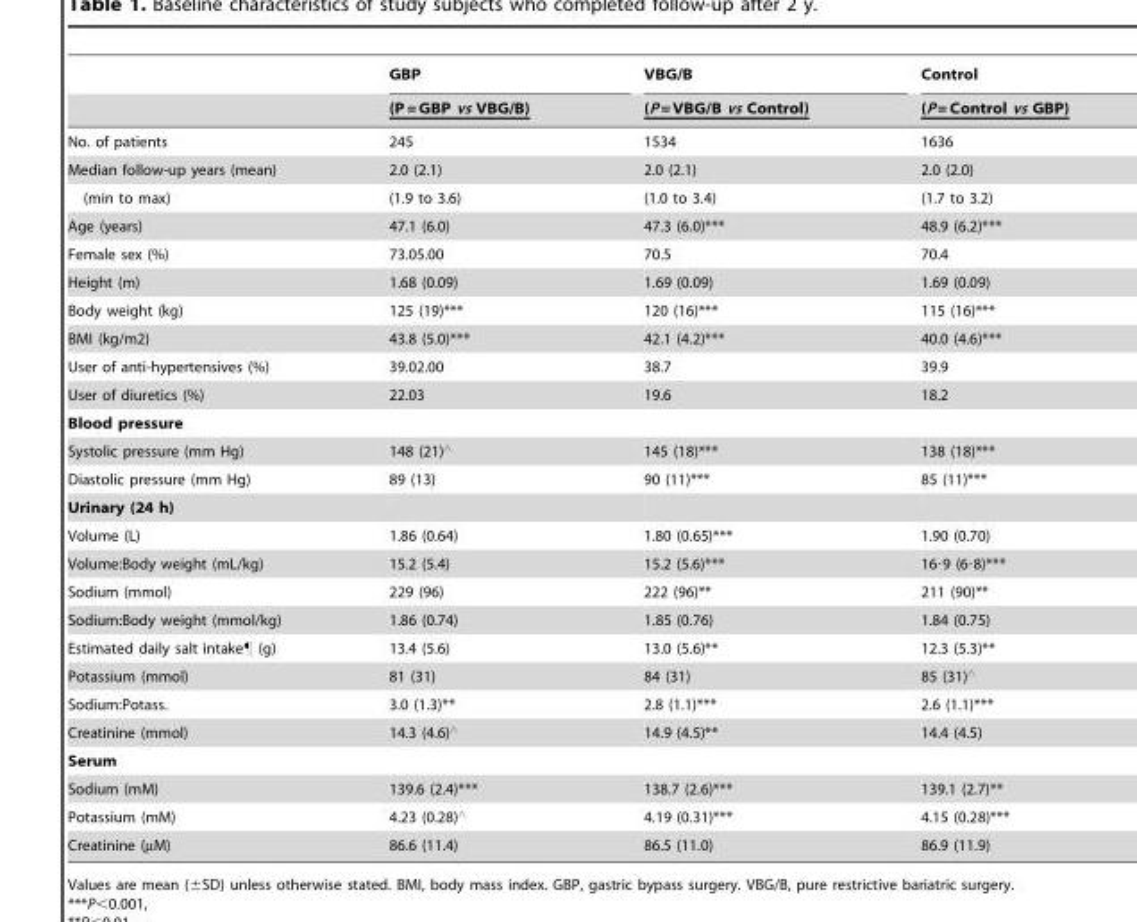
<table><thead><tr><td rowspan="2"></td><td rowspan="2">GBP (P = GBP vs VBG/B)</td><td rowspan="2">VBG/B (P = VBG/B vs Control)</td><td rowspan="2">Control (P = Control vs GBP)</td></tr><tr></tr></thead><tbody><tr><td>No. of patients</td><td>245</td><td>1534</td><td>1636</td></tr><tr><td>Median follow-up years (mean)</td><td>2.0 (2.1)</td><td>2.0 (2.1)</td><td>2.0 (2.0)</td></tr><tr><td>(min to max)</td><td>(1.9 to 3.6)</td><td>(1.0 to 3.4)</td><td>(1.7 to 3.2)</td></tr><tr><td>Age (years)</td><td>47.1 (6.0)</td><td>47.3 (6.0)***</td><td>48.9 (6.2)***</td></tr><tr><td>Female sex (%)</td><td>73.05.00</td><td>70.5</td><td>70.4</td></tr><tr><td>Height (m)</td><td>1.68 (0.09)</td><td>1.69 (0.09)</td><td>1.69 (0.09)</td></tr><tr><td>Body weight (kg)</td><td>125 (19)***</td><td>120 (16)***</td><td>115 (16)***</td></tr><tr><td>BMI (kg/m2)</td><td>43.8 (5.0)***</td><td>42.1 (4.2)***</td><td>40.0 (4.6)***</td></tr><tr><td>User of anti-hypertensives (%)</td><td>39.02.00</td><td>38.7</td><td>39.9</td></tr><tr><td>User of diuretics (%)</td><td>22.03</td><td>19.6</td><td>18.2</td></tr><tr><td colspan="4">Blood pressure</td></tr><tr><td>Systolic pressure (mm Hg)</td><td>148 (21)‘</td><td>145 (18)***</td><td>138 (18)***</td></tr><tr><td>Diastolic pressure (mm Hg)</td><td>89 (13)</td><td>90 (11)***</td><td>85 (11)***</td></tr><tr><td colspan="4">Urinary (24 h)</td></tr><tr><td>Volume (L)</td><td>1.86 (0.64)</td><td>1.80 (0.65)***</td><td>1.90 (0.70)</td></tr><tr><td>Volume:Body weight (mL/kg)</td><td>15.2 (5.4)</td><td>15.2 (5.6)***</td><td>16·9 (6·8)***</td></tr><tr><td>Sodium (mmol)</td><td>229 (96)</td><td>222 (96)**</td><td>211 (90)**</td></tr><tr><td>Sodium:Body weight (mmol/kg)</td><td>1.86 (0.74)</td><td>1.85 (0.76)</td><td>1.84 (0.75)</td></tr><tr><td>Estimated daily salt intake¶ (g)</td><td>13.4 (5.6)</td><td>13.0 (5.6)**</td><td>12.3 (5.3)**</td></tr><tr><td>Potassium (mmol)</td><td>81 (31)</td><td>84 (31)</td><td>85 (31)‘</td></tr><tr><td>Sodium:Potass.</td><td>3.0 (1.3)**</td><td>2.8 (1.1)***</td><td>2.6 (1.1)***</td></tr><tr><td>Creatinine (mmol)</td><td>14.3 (4.6)‘</td><td>14.9 (4.5)**</td><td>14.4 (4.5)</td></tr><tr><td colspan="4">Serum</td></tr><tr><td>Sodium (mM)</td><td>139.6 (2.4)***</td><td>138.7 (2.6)***</td><td>139.1 (2.7)**</td></tr><tr><td>Potassium (mM)</td><td>4.23 (0.28)‘</td><td>4.19 (0.31)***</td><td>4.15 (0.28)***</td></tr><tr><td>Creatinine (µM)</td><td>86.6 (11.4)</td><td>86.5 (11.0)</td><td>86.9 (11.9)</td></tr></tbody></table>